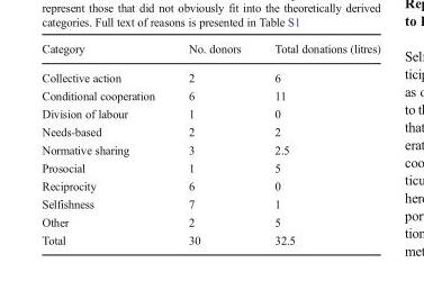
<table><thead><tr><td>Category</td><td>No. donors</td><td>Total donations (litres)</td></tr></thead><tbody><tr><td>Collective action</td><td>2</td><td>6</td></tr><tr><td>Conditional cooperation</td><td>6</td><td>11</td></tr><tr><td>Division of labour</td><td>1</td><td>0</td></tr><tr><td>Needs-based</td><td>2</td><td>2</td></tr><tr><td>Normative sharing</td><td>3</td><td>2.5</td></tr><tr><td>Prosocial</td><td>1</td><td>5</td></tr><tr><td>Reciprocity</td><td>6</td><td>0</td></tr><tr><td>Selfishness</td><td>7</td><td>1</td></tr><tr><td>Other</td><td>2</td><td>5</td></tr><tr><td>Total</td><td>30</td><td>32.5</td></tr></tbody></table>